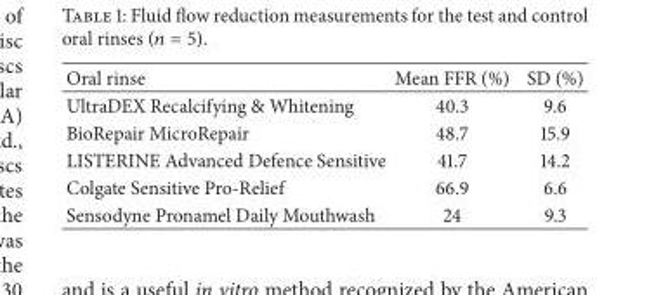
<table><thead><tr><td>Oral rinse</td><td>Mean FFR (%)</td><td>SD (%)</td></tr></thead><tbody><tr><td>UltraDEX Recalcifying &amp; Whitening</td><td>40.3</td><td>9.6</td></tr><tr><td>BioRepair MicroRepair</td><td>48.7</td><td>15.9</td></tr><tr><td>LISTERINE Advanced Defence Sensitive</td><td>41.7</td><td>14.2</td></tr><tr><td>Colgate Sensitive Pro-Relief</td><td>66.9</td><td>6.6</td></tr><tr><td>Sensodyne Pronamel Daily Mouthwash</td><td>24</td><td>9.3</td></tr></tbody></table>